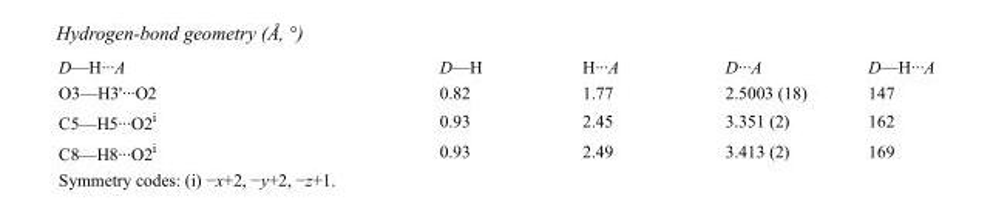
<table><tbody><tr><td>D—H···A</td><td>D—H</td><td>H···A</td><td>D···A</td><td>D—H···A</td></tr><tr><td>O3—H3&#x27;···O2</td><td>0.82</td><td>1.77</td><td>2.5003 (18)</td><td>147</td></tr><tr><td>C5—H5···O2<sup>i</sup></td><td>0.93</td><td>2.45</td><td>3.351 (2)</td><td>162</td></tr><tr><td>C8—H8···O2<sup>i</sup></td><td>0.93</td><td>2.49</td><td>3.413 (2)</td><td>169</td></tr></tbody></table>